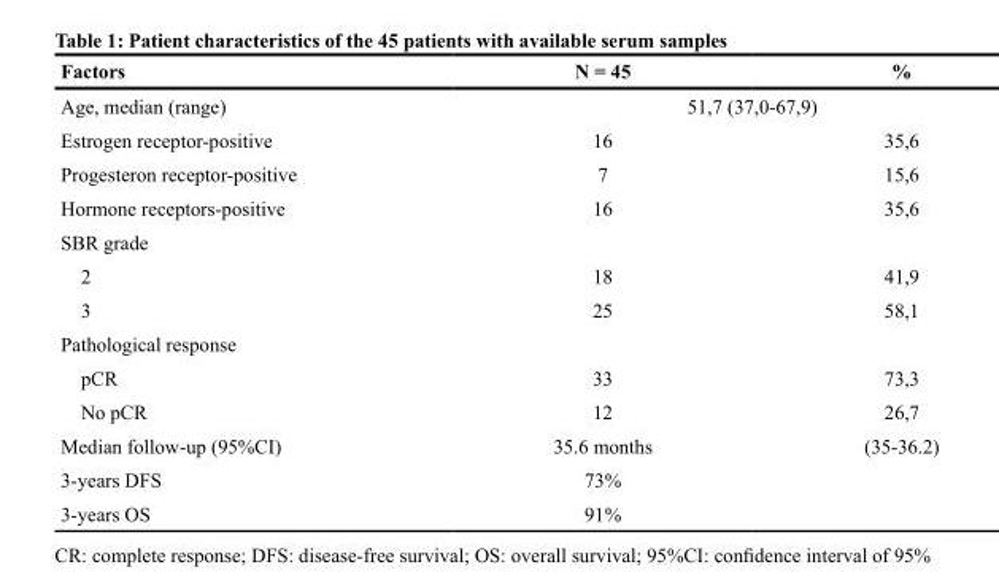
<table><thead><tr><td>Factors</td><td>N = 45</td><td>%</td></tr></thead><tbody><tr><td>Age, median (range)</td><td colspan="2">51,7 (37,0-67,9)</td></tr><tr><td>Estrogen receptor-positive</td><td>16</td><td>35,6</td></tr><tr><td>Progesteron receptor-positive</td><td>7</td><td>15,6</td></tr><tr><td>Hormone receptors-positive</td><td>16</td><td>35,6</td></tr><tr><td colspan="3">SBR grade</td></tr><tr><td>2</td><td>18</td><td>41,9</td></tr><tr><td>3</td><td>25</td><td>58,1</td></tr><tr><td colspan="3">Pathological response</td></tr><tr><td>pCR</td><td>33</td><td>73,3</td></tr><tr><td>No pCR</td><td>12</td><td>26,7</td></tr><tr><td>Median follow-up (95%CI)</td><td>35.6 months</td><td>(35-36.2)</td></tr><tr><td>3-years DFS</td><td>73%</td><td></td></tr><tr><td>3-years OS</td><td>91%</td><td></td></tr></tbody></table>